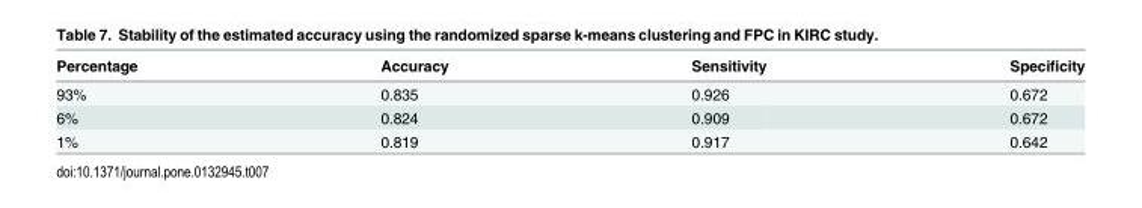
<table><thead><tr><td>Percentage</td><td>Accuracy</td><td>Sensitivity</td><td>Specificity</td></tr></thead><tbody><tr><td>93%</td><td>0.835</td><td>0.926</td><td>0.672</td></tr><tr><td>6%</td><td>0.824</td><td>0.909</td><td>0.672</td></tr><tr><td>1%</td><td>0.819</td><td>0.917</td><td>0.642</td></tr></tbody></table>